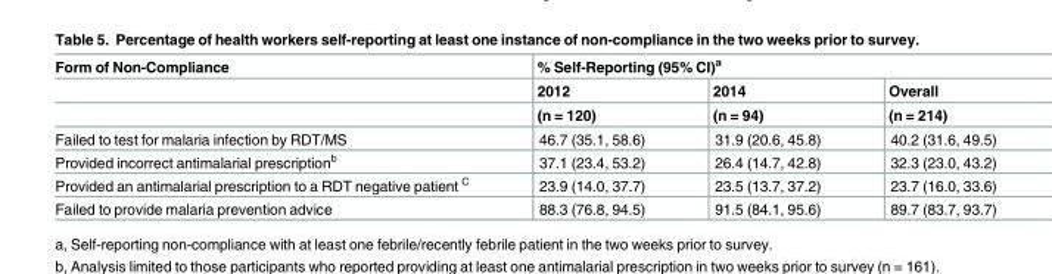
<table><thead><tr><td rowspan="3">Form of Non-Compliance</td><td colspan="3">% Self-Reporting (95% CI)<sup>a</sup></td></tr><tr><td rowspan="2">2012 (n = 120)</td><td rowspan="2">2014 (n = 94)</td><td rowspan="2">Overall (n = 214)</td></tr><tr></tr></thead><tbody><tr><td>Failed to test for malaria infection by RDT/MS</td><td>46.7 (35.1, 58.6)</td><td>31.9 (20.6, 45.8)</td><td>40.2 (31.6, 49.5)</td></tr><tr><td>Provided incorrect antimalarial prescription<sup>b</sup></td><td>37.1 (23.4, 53.2)</td><td>26.4 (14.7, 42.8)</td><td>32.3 (23.0, 43.2)</td></tr><tr><td>Provided an antimalarial prescription to a RDT negative patient <sup>C</sup></td><td>23.9 (14.0, 37.7)</td><td>23.5 (13.7, 37.2)</td><td>23.7 (16.0, 33.6)</td></tr><tr><td>Failed to provide malaria prevention advice</td><td>88.3 (76.8, 94.5)</td><td>91.5 (84.1, 95.6)</td><td>89.7 (83.7, 93.7)</td></tr></tbody></table>